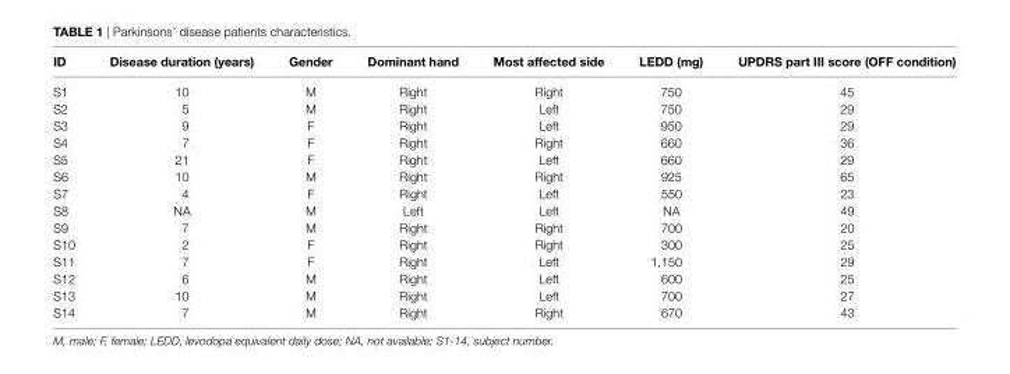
<table><thead><tr><td>iD</td><td>Disease duration (years)</td><td>gender</td><td>Dominant hand</td><td>Most affected side</td><td>leDD (mg)</td><td>UPDrs part iii score (OFF condition)</td></tr></thead><tbody><tr><td>S1</td><td>10</td><td>M</td><td>Right</td><td>Right</td><td>750</td><td>45</td></tr><tr><td>S2</td><td>5</td><td>M</td><td>Right</td><td>Left</td><td>750</td><td>29</td></tr><tr><td>S3</td><td>9</td><td>F</td><td>Right</td><td>Left</td><td>950</td><td>29</td></tr><tr><td>S4</td><td>7</td><td>F</td><td>Right</td><td>Right</td><td>660</td><td>36</td></tr><tr><td>S5</td><td>21</td><td>F</td><td>Right</td><td>Left</td><td>660</td><td>29</td></tr><tr><td>S6</td><td>10</td><td>M</td><td>Right</td><td>Right</td><td>925</td><td>65</td></tr><tr><td>S7</td><td>4</td><td>F</td><td>Right</td><td>Left</td><td>550</td><td>23</td></tr><tr><td>S8</td><td>NA</td><td>M</td><td>Left</td><td>Left</td><td>NA</td><td>49</td></tr><tr><td>S9</td><td>7</td><td>M</td><td>Right</td><td>Right</td><td>700</td><td>20</td></tr><tr><td>S10</td><td>2</td><td>F</td><td>Right</td><td>Right</td><td>300</td><td>25</td></tr><tr><td>S11</td><td>7</td><td>F</td><td>Right</td><td>Left</td><td>1,150</td><td>29</td></tr><tr><td>S12</td><td>6</td><td>M</td><td>Right</td><td>Left</td><td>600</td><td>25</td></tr><tr><td>S13</td><td>10</td><td>M</td><td>Right</td><td>Left</td><td>700</td><td>27</td></tr><tr><td>S14</td><td>7</td><td>M</td><td>Right</td><td>Right</td><td>670</td><td>43</td></tr></tbody></table>